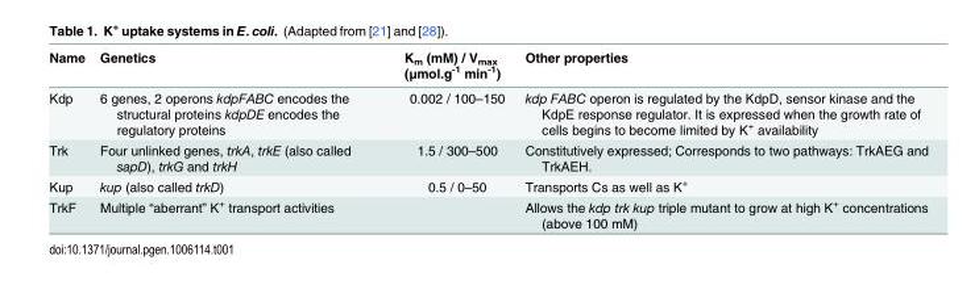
<table><thead><tr><td>Name</td><td>Genetics</td><td>K<sub>m</sub> (mM) / V<sub>max</sub> (μmol.g<sup>-1</sup> min<sup>-1</sup>)</td><td>Other properties</td></tr></thead><tbody><tr><td>Kdp</td><td>6 genes, 2 operons kdpFABC encodes the structural proteins kdpDE encodes the regulatory proteins</td><td>0.002 / 100–150</td><td>kdp FABC operon is regulated by the KdpD, sensor kinase and the KdpE response regulator. It is expressed when the growth rate of cells begins to become limited by K<sup>+</sup> availability</td></tr><tr><td>Trk</td><td>Four unlinked genes, trkA, trkE (also called sapD), trkG and trkH</td><td>1.5 / 300–500</td><td>Constitutively expressed; Corresponds to two pathways: TrkAEG and TrkAEH.</td></tr><tr><td>Kup</td><td>kup (also called trkD)</td><td>0.5 / 0–50</td><td>Transports Cs as well as K<sup>+</sup></td></tr><tr><td>TrkF</td><td>Multiple “aberrant” K<sup>+</sup> transport activities</td><td></td><td>Allows the kdp trk kup triple mutant to grow at high K<sup>+</sup> concentrations (above 100 mM)</td></tr></tbody></table>